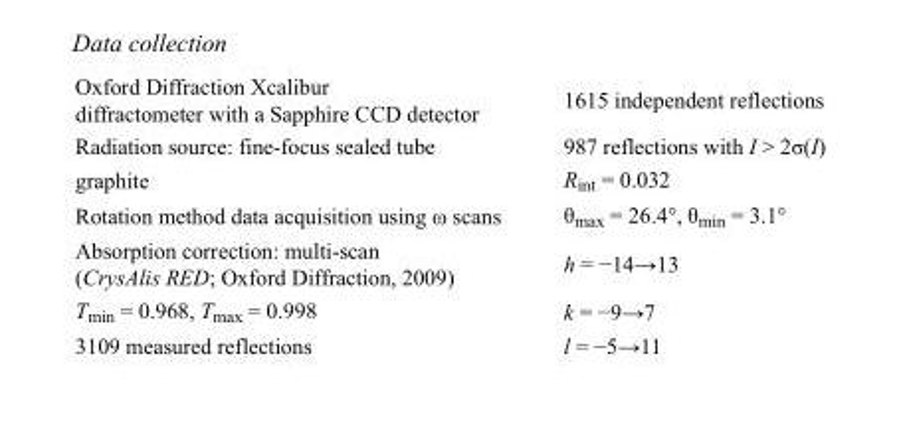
<table><tbody><tr><td>Oxford Diffraction Xcalibur diffractometer with a Sapphire CCD detector</td><td>1615 independent reflections</td></tr><tr><td>Radiation source: fine-focus sealed tube</td><td>987 reflections with I &gt; 2σ(I)</td></tr><tr><td>graphite</td><td>R<sub>int</sub> = 0.032</td></tr><tr><td>Rotation method data acquisition using ω scans</td><td>θ<sub>max</sub> = 26.4°, θ<sub>min</sub> = 3.1°</td></tr><tr><td>Absorption correction: multi-scan (CrysAlis RED; Oxford Diffraction, 2009)</td><td>h = −14→13</td></tr><tr><td>T<sub>min</sub> = 0.968, T<sub>max</sub> = 0.998</td><td>k = −9→7</td></tr><tr><td>3109 measured reflections</td><td>l = −5→11</td></tr></tbody></table>